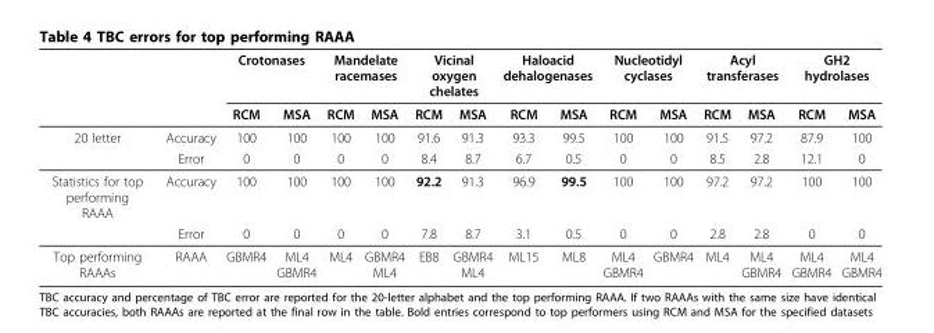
<table><thead><tr><td rowspan="2"></td><td rowspan="2"></td><td colspan="2">Crotonases</td><td colspan="2">Mandelate racemases</td><td colspan="2">Vicinal oxygen chelates</td><td colspan="2">Haloacid dehalogenases</td><td colspan="2">Nucleotidyl cyclases</td><td colspan="2">Acyl transferases</td><td colspan="2">GH2 hydrolases</td></tr><tr><td>RCM</td><td>MSA</td><td>RCM</td><td>MSA</td><td>RCM</td><td>MSA</td><td>RCM</td><td>MSA</td><td>RCM</td><td>MSA</td><td>RCM</td><td>MSA</td><td>RCM</td><td>MSA</td></tr></thead><tbody><tr><td rowspan="2">20 letter</td><td>Accuracy</td><td>100</td><td>100</td><td>100</td><td>100</td><td>91.6</td><td>91.3</td><td>93.3</td><td>99.5</td><td>100</td><td>100</td><td>91.5</td><td>97.2</td><td>87.9</td><td>100</td></tr><tr><td>Error</td><td>0</td><td>0</td><td>0</td><td>0</td><td>8.4</td><td>8.7</td><td>6.7</td><td>0.5</td><td>0</td><td>0</td><td>8.5</td><td>2.8</td><td>12.1</td><td>0</td></tr><tr><td rowspan="2">Statistics for top performing RAAA</td><td>Accuracy</td><td>100</td><td>100</td><td>100</td><td>100</td><td>92.2</td><td>91.3</td><td>96.9</td><td>99.5</td><td>100</td><td>100</td><td>97.2</td><td>97.2</td><td>100</td><td>100</td></tr><tr><td>Error</td><td>0</td><td>0</td><td>0</td><td>0</td><td>7.8</td><td>8.7</td><td>3.1</td><td>0.5</td><td>0</td><td>0</td><td>2.8</td><td>2.8</td><td>0</td><td>0</td></tr><tr><td>Top performing RAAAs</td><td>RAAA</td><td>GBMR4</td><td>ML4 GBMR4</td><td>ML4</td><td>GBMR4 ML4</td><td>EB8</td><td>GBMR4 ML4</td><td>ML15</td><td>ML8</td><td>ML4 GBMR4</td><td>GBMR4</td><td>ML4</td><td>ML4 GBMR4</td><td>ML4 GBMR4</td><td>ML4 GBMR4</td></tr></tbody></table>